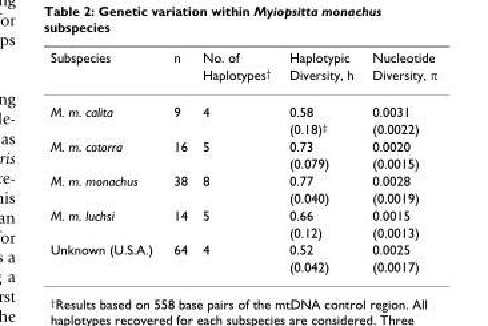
<table><thead><tr><td rowspan="2">Subspecies</td><td rowspan="2">n</td><td rowspan="2">No. of Haplotypes<sup>†</sup></td><td rowspan="2">Haplotypic Diversity, h</td><td rowspan="2">Nucleotide Diversity, π</td></tr><tr></tr></thead><tbody><tr><td rowspan="2">M. m. calita</td><td>9</td><td>4</td><td>0.58</td><td>0.0031</td></tr><tr><td></td><td></td><td>(0.18)<sup>‡</sup></td><td>(0.0022)</td></tr><tr><td rowspan="2">M. m. cotorra</td><td>16</td><td>5</td><td>0.73</td><td>0.0020</td></tr><tr><td></td><td></td><td>(0.079)</td><td>(0.0015)</td></tr><tr><td rowspan="2">M. m. monachus</td><td>38</td><td>8</td><td>0.77</td><td>0.0028</td></tr><tr><td></td><td></td><td>(0.040)</td><td>(0.0019)</td></tr><tr><td rowspan="2">M. m. luchsi</td><td>14</td><td>5</td><td>0.66</td><td>0.0015</td></tr><tr><td></td><td></td><td>(0.12)</td><td>(0.0013)</td></tr><tr><td rowspan="2">Unknown (U.S.A.)</td><td>64</td><td>4</td><td>0.52</td><td>0.0025</td></tr><tr><td></td><td></td><td>(0.042)</td><td>(0.0017)</td></tr></tbody></table>